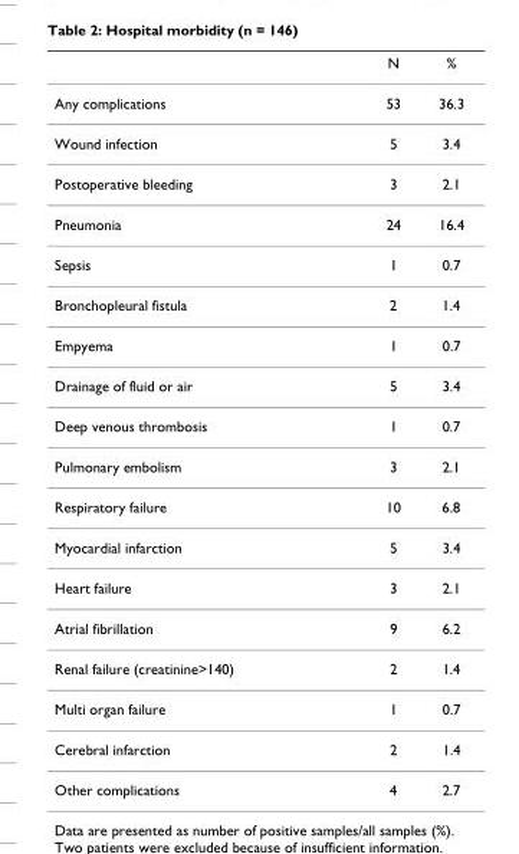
<table><thead><tr><td></td><td>N</td><td>%</td></tr></thead><tbody><tr><td>Any complications</td><td>53</td><td>36.3</td></tr><tr><td>Wound infection</td><td>5</td><td>3.4</td></tr><tr><td>Postoperative bleeding</td><td>3</td><td>2.1</td></tr><tr><td>Pneumonia</td><td>24</td><td>16.4</td></tr><tr><td>Sepsis</td><td>1</td><td>0.7</td></tr><tr><td>Bronchopleural fistula</td><td>2</td><td>1.4</td></tr><tr><td>Empyema</td><td>1</td><td>0.7</td></tr><tr><td>Drainage of fluid or air</td><td>5</td><td>3.4</td></tr><tr><td>Deep venous thrombosis</td><td>1</td><td>0.7</td></tr><tr><td>Pulmonary embolism</td><td>3</td><td>2.1</td></tr><tr><td>Respiratory failure</td><td>10</td><td>6.8</td></tr><tr><td>Myocardial infarction</td><td>5</td><td>3.4</td></tr><tr><td>Heart failure</td><td>3</td><td>2.1</td></tr><tr><td>Atrial fibrillation</td><td>9</td><td>6.2</td></tr><tr><td>Renal failure (creatinine&gt;140)</td><td>2</td><td>1.4</td></tr><tr><td>Multi organ failure</td><td>1</td><td>0.7</td></tr><tr><td>Cerebral infarction</td><td>2</td><td>1.4</td></tr><tr><td>Other complications</td><td>4</td><td>2.7</td></tr></tbody></table>